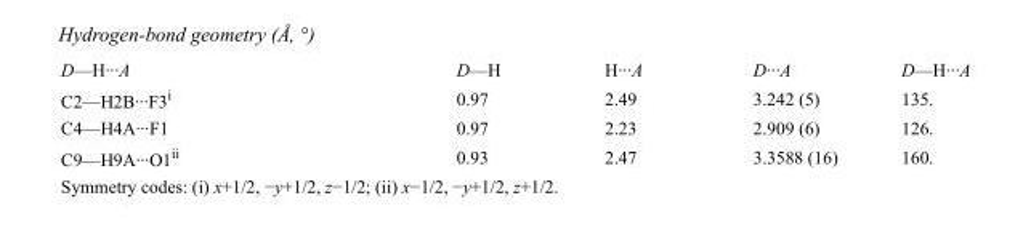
<table><tbody><tr><td>D—H···A</td><td>D—H</td><td>H···A</td><td>D···A</td><td>D—H···A</td></tr><tr><td>C2—H2B···F3<sup>i</sup></td><td>0.97</td><td>2.49</td><td>3.242 (5)</td><td>135.</td></tr><tr><td>C4—H4A···F1</td><td>0.97</td><td>2.23</td><td>2.909 (6)</td><td>126.</td></tr><tr><td>C9—H9A···O1<sup>ii</sup></td><td>0.93</td><td>2.47</td><td>3.3588 (16)</td><td>160.</td></tr></tbody></table>